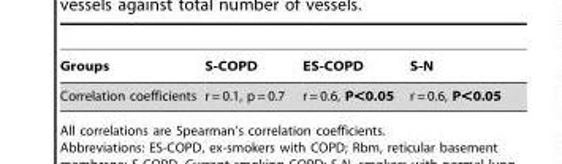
<table><thead><tr><td>Groups</td><td>S-COPD</td><td>ES-COPD</td><td>S-N</td></tr></thead><tbody><tr><td>Correlation coefficients</td><td>r = 0.1, p = 0.7</td><td>r = 0.6, P&lt;0.05</td><td>r = 0.6, P&lt;0.05</td></tr></tbody></table>